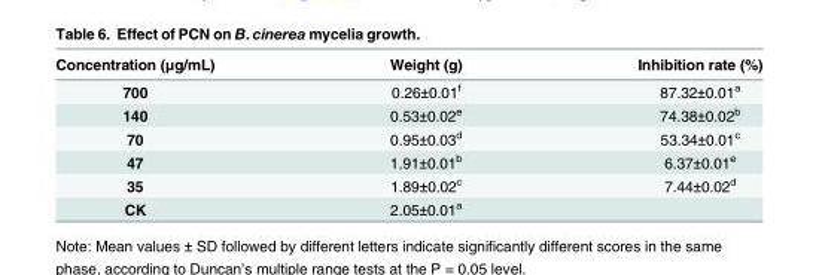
<table><thead><tr><td>Concentration (μg/mL)</td><td>Weight (g)</td><td>Inhibition rate (%)</td></tr></thead><tbody><tr><td>700</td><td>0.26±0.01<sup>f</sup></td><td>87.32±0.01<sup>a</sup></td></tr><tr><td>140</td><td>0.53±0.02<sup>e</sup></td><td>74.38±0.02<sup>b</sup></td></tr><tr><td>70</td><td>0.95±0.03<sup>d</sup></td><td>53.34±0.01<sup>c</sup></td></tr><tr><td>47</td><td>1.91±0.01<sup>b</sup></td><td>6.37±0.01<sup>e</sup></td></tr><tr><td>35</td><td>1.89±0.02<sup>c</sup></td><td>7.44±0.02<sup>d</sup></td></tr><tr><td>CK</td><td>2.05±0.01<sup>a</sup></td><td></td></tr></tbody></table>